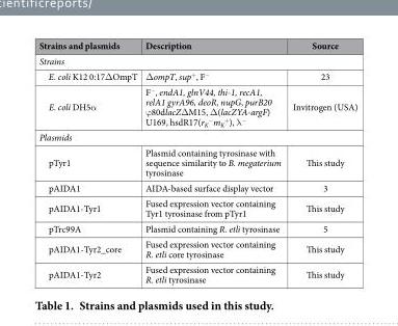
<table><thead><tr><td>Strains and plasmids</td><td>Description</td><td>Source</td></tr></thead><tbody><tr><td colspan="3">Strains</td></tr><tr><td>E. coli K12 0:17Δ OmpT</td><td>Δ ompT, sup<sup>+</sup>, F<sup>−</sup></td><td>23</td></tr><tr><td>E. coli DH5α</td><td>F<sup>−</sup>, endA1, glnV44, thi-1, recA1, relA1 gyrA96, deoR, nupG, purB20 ϕ 80dlacZΔ M15, Δ (lacZYA-argF) U169, hsdR17(r<sub>K</sub> <sup>−</sup>m<sub>K</sub> <sup>+</sup>), λ <sup>−</sup></td><td>Invitrogen (USA)</td></tr><tr><td colspan="3">Plasmids</td></tr><tr><td>pTyr1</td><td>Plasmid containing tyrosinase with sequence similarity to B. megaterium tyrosinase</td><td>This study</td></tr><tr><td>pAIDA1</td><td>AIDA-based surface display vector</td><td>3</td></tr><tr><td>pAIDA1-Tyr1</td><td>Fused expression vector containing Tyr1 tyrosinase from pTyr1</td><td>This study</td></tr><tr><td>pTrc99A</td><td>Plasmid containing R. etli tyrosinase</td><td>5</td></tr><tr><td>pAIDA1-Tyr2_core</td><td>Fused expression vector containing R. etli core tyrosinase</td><td>This study</td></tr><tr><td>pAIDA1-Tyr2</td><td>Fused expression vector containing R. etli tyrosinase</td><td>This study</td></tr></tbody></table>